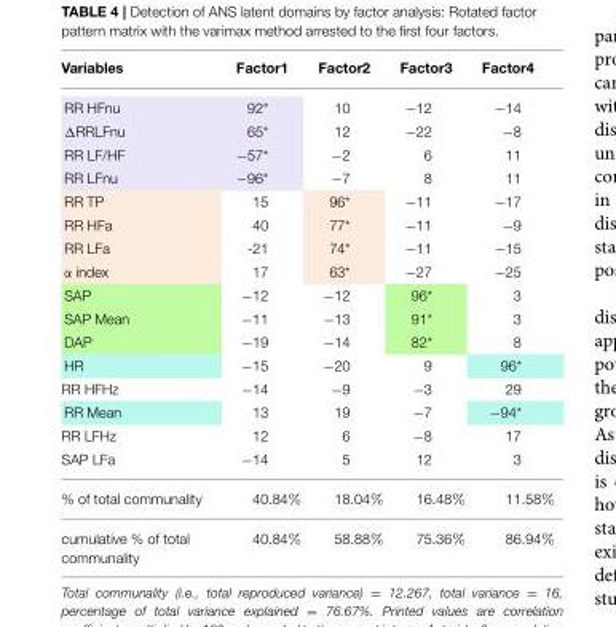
<table><thead><tr><td>Variables</td><td>Factor1</td><td>Factor2</td><td>Factor3</td><td>Factor4</td></tr></thead><tbody><tr><td>RR HFnu</td><td>92*</td><td>10</td><td>−12</td><td>−14</td></tr><tr><td>ΔRRLFnu</td><td>65*</td><td>12</td><td>−22</td><td>−8</td></tr><tr><td>RR LF/HF</td><td>−57*</td><td>−2</td><td>6</td><td>11</td></tr><tr><td>RR LFnu</td><td>−96*</td><td>−7</td><td>8</td><td>11</td></tr><tr><td>RR TP</td><td>15</td><td>96*</td><td>−11</td><td>−17</td></tr><tr><td>RR HFa</td><td>40</td><td>77*</td><td>−11</td><td>−9</td></tr><tr><td>RR LFa</td><td>-21</td><td>74*</td><td>−11</td><td>−15</td></tr><tr><td>α index</td><td>17</td><td>63*</td><td>−27</td><td>−25</td></tr><tr><td>SAP</td><td>−12</td><td>−12</td><td>96*</td><td>3</td></tr><tr><td>SAP Mean</td><td>−11</td><td>−13</td><td>91*</td><td>3</td></tr><tr><td>DAP</td><td>−19</td><td>−14</td><td>82*</td><td>8</td></tr><tr><td>HR</td><td>−15</td><td>−20</td><td>9</td><td>96*</td></tr><tr><td>RR HFHz</td><td>−14</td><td>−9</td><td>−3</td><td>29</td></tr><tr><td>RR Mean</td><td>13</td><td>19</td><td>−7</td><td>−94*</td></tr><tr><td>RR LFHz</td><td>12</td><td>6</td><td>−8</td><td>17</td></tr><tr><td>SAP LFa</td><td>−14</td><td>5</td><td>12</td><td>3</td></tr><tr><td>% of total communality</td><td>40.84%</td><td>18.04%</td><td>16.48%</td><td>11.58%</td></tr><tr><td>cumulative % of total communality</td><td>40.84%</td><td>58.88%</td><td>75.36%</td><td>86.94%</td></tr></tbody></table>